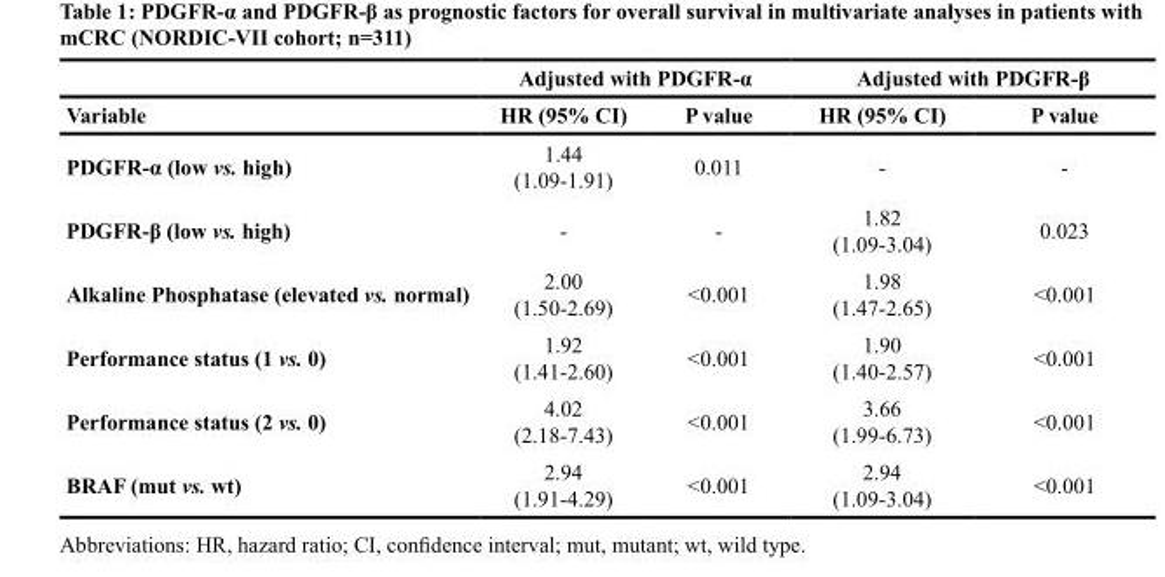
<table><thead><tr><td rowspan="2">Variable</td><td colspan="2">Adjusted with PDGFR-α</td><td colspan="2">Adjusted with PDGFR-β</td></tr><tr><td>HR (95% CI)</td><td>P value</td><td>HR (95% CI)</td><td>P value</td></tr></thead><tbody><tr><td>PDGFR-α (low vs. high)</td><td>1.44 (1.09-1.91)</td><td>0.011</td><td>-</td><td>-</td></tr><tr><td>PDGFR-β (low vs. high)</td><td>-</td><td>-</td><td>1.82 (1.09-3.04)</td><td>0.023</td></tr><tr><td>Alkaline Phosphatase (elevated vs. normal)</td><td>2.00 (1.50-2.69)</td><td>&lt;0.001</td><td>1.98 (1.47-2.65)</td><td>&lt;0.001</td></tr><tr><td>Performance status (1 vs. 0)</td><td>1.92 (1.41-2.60)</td><td>&lt;0.001</td><td>1.90 (1.40-2.57)</td><td>&lt;0.001</td></tr><tr><td>Performance status (2 vs. 0)</td><td>4.02 (2.18-7.43)</td><td>&lt;0.001</td><td>3.66 (1.99-6.73)</td><td>&lt;0.001</td></tr><tr><td>BRAF (mut vs. wt)</td><td>2.94 (1.91-4.29)</td><td>&lt;0.001</td><td>2.94 (1.09-3.04)</td><td>&lt;0.001</td></tr></tbody></table>